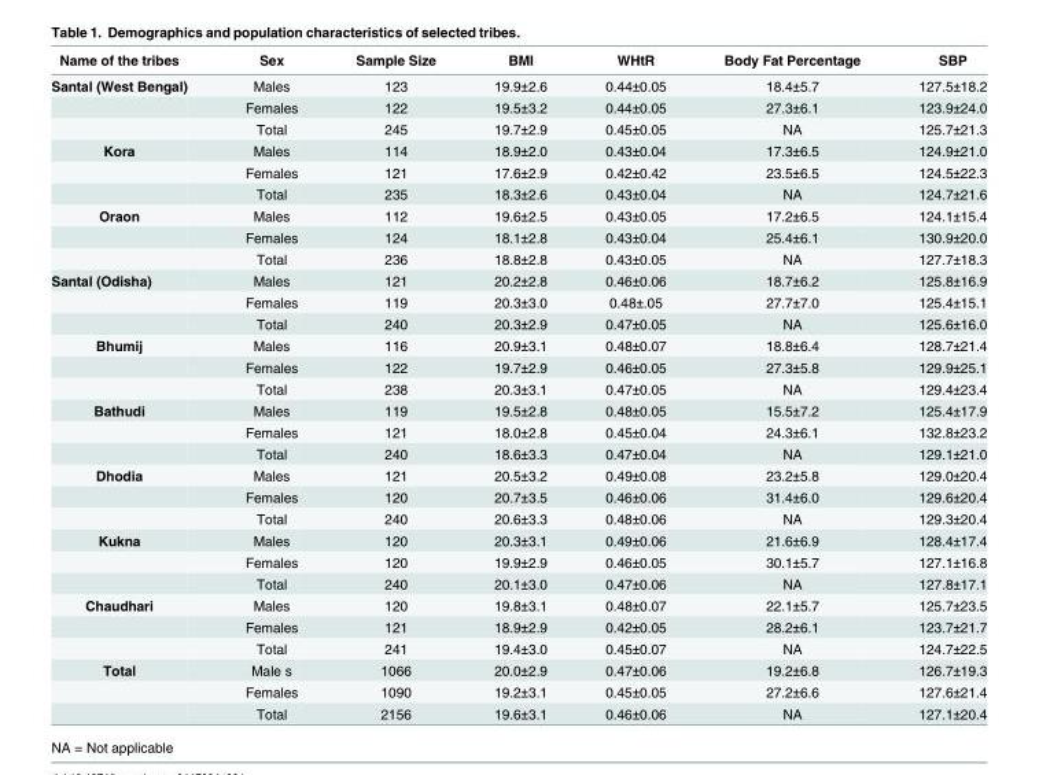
<table><thead><tr><td>Name of the tribes</td><td>Sex</td><td>Sample Size</td><td>BMI</td><td>WHtR</td><td>Body Fat Percentage</td><td>SBP</td></tr></thead><tbody><tr><td rowspan="3">Santal (West Bengal)</td><td>Males</td><td>123</td><td>19.9±2.6</td><td>0.44±0.05</td><td>18.4±5.7</td><td>127.5±18.2</td></tr><tr><td>Females</td><td>122</td><td>19.5±3.2</td><td>0.44±0.05</td><td>27.3±6.1</td><td>123.9±24.0</td></tr><tr><td>Total</td><td>245</td><td>19.7±2.9</td><td>0.45±0.05</td><td>NA</td><td>125.7±21.3</td></tr><tr><td rowspan="3">Kora</td><td>Males</td><td>114</td><td>18.9±2.0</td><td>0.43±0.04</td><td>17.3±6.5</td><td>124.9±21.0</td></tr><tr><td>Females</td><td>121</td><td>17.6±2.9</td><td>0.42±0.42</td><td>23.5±6.5</td><td>124.5±22.3</td></tr><tr><td>Total</td><td>235</td><td>18.3±2.6</td><td>0.43±0.04</td><td>NA</td><td>124.7±21.6</td></tr><tr><td rowspan="3">Oraon</td><td>Males</td><td>112</td><td>19.6±2.5</td><td>0.43±0.05</td><td>17.2±6.5</td><td>124.1±15.4</td></tr><tr><td>Females</td><td>124</td><td>18.1±2.8</td><td>0.43±0.04</td><td>25.4±6.1</td><td>130.9±20.0</td></tr><tr><td>Total</td><td>236</td><td>18.8±2.8</td><td>0.43±0.05</td><td>NA</td><td>127.7±18.3</td></tr><tr><td rowspan="3">Santal (Odisha)</td><td>Males</td><td>121</td><td>20.2±2.8</td><td>0.46±0.06</td><td>18.7±6.2</td><td>125.8±16.9</td></tr><tr><td>Females</td><td>119</td><td>20.3±3.0</td><td>0.48±.05</td><td>27.7±7.0</td><td>125.4±15.1</td></tr><tr><td>Total</td><td>240</td><td>20.3±2.9</td><td>0.47±0.05</td><td>NA</td><td>125.6±16.0</td></tr><tr><td rowspan="3">Bhumij</td><td>Males</td><td>116</td><td>20.9±3.1</td><td>0.48±0.07</td><td>18.8±6.4</td><td>128.7±21.4</td></tr><tr><td>Females</td><td>122</td><td>19.7±2.9</td><td>0.46±0.05</td><td>27.3±5.8</td><td>129.9±25.1</td></tr><tr><td>Total</td><td>238</td><td>20.3±3.1</td><td>0.47±0.05</td><td>NA</td><td>129.4±23.4</td></tr><tr><td rowspan="3">Bathudi</td><td>Males</td><td>119</td><td>19.5±2.8</td><td>0.48±0.05</td><td>15.5±7.2</td><td>125.4±17.9</td></tr><tr><td>Females</td><td>121</td><td>18.0±2.8</td><td>0.45±0.04</td><td>24.3±6.1</td><td>132.8±23.2</td></tr><tr><td>Total</td><td>240</td><td>18.6±3.3</td><td>0.47±0.04</td><td>NA</td><td>129.1±21.0</td></tr><tr><td rowspan="3">Dhodia</td><td>Males</td><td>121</td><td>20.5±3.2</td><td>0.49±0.08</td><td>23.2±5.8</td><td>129.0±20.4</td></tr><tr><td>Females</td><td>120</td><td>20.7±3.5</td><td>0.46±0.06</td><td>31.4±6.0</td><td>129.6±20.4</td></tr><tr><td>Total</td><td>240</td><td>20.6±3.3</td><td>0.48±0.06</td><td>NA</td><td>129.3±20.4</td></tr><tr><td rowspan="3">Kukna</td><td>Males</td><td>120</td><td>20.3±3.1</td><td>0.49±0.06</td><td>21.6±6.9</td><td>128.4±17.4</td></tr><tr><td>Females</td><td>120</td><td>19.9±2.9</td><td>0.46±0.05</td><td>30.1±5.7</td><td>127.1±16.8</td></tr><tr><td>Total</td><td>240</td><td>20.1±3.0</td><td>0.47±0.06</td><td>NA</td><td>127.8±17.1</td></tr><tr><td rowspan="3">Chaudhari</td><td>Males</td><td>120</td><td>19.8±3.1</td><td>0.48±0.07</td><td>22.1±5.7</td><td>125.7±23.5</td></tr><tr><td>Females</td><td>121</td><td>18.9±2.9</td><td>0.42±0.05</td><td>28.2±6.1</td><td>123.7±21.7</td></tr><tr><td>Total</td><td>241</td><td>19.4±3.0</td><td>0.45±0.07</td><td>NA</td><td>124.7±22.5</td></tr><tr><td rowspan="3">Total</td><td>Male s</td><td>1066</td><td>20.0±2.9</td><td>0.47±0.06</td><td>19.2±6.8</td><td>126.7±19.3</td></tr><tr><td>Females</td><td>1090</td><td>19.2±3.1</td><td>0.45±0.05</td><td>27.2±6.6</td><td>127.6±21.4</td></tr><tr><td>Total</td><td>2156</td><td>19.6±3.1</td><td>0.46±0.06</td><td>NA</td><td>127.1±20.4</td></tr></tbody></table>